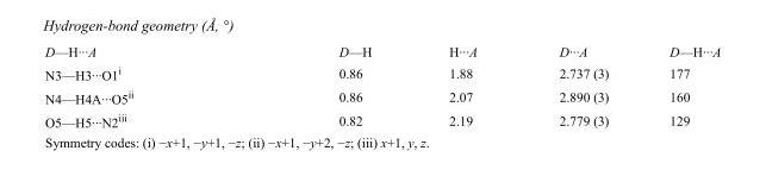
<table><tbody><tr><td>D—H···A</td><td>D—H</td><td>H···A</td><td>D···A</td><td>D—H···A</td></tr><tr><td>N3—H3···O1<sup>i</sup></td><td>0.86</td><td>1.88</td><td>2.737 (3)</td><td>177</td></tr><tr><td>N4—H4A···O5<sup>ii</sup></td><td>0.86</td><td>2.07</td><td>2.890 (3)</td><td>160</td></tr><tr><td>O5—H5···N2<sup>iii</sup></td><td>0.82</td><td>2.19</td><td>2.779 (3)</td><td>129</td></tr></tbody></table>